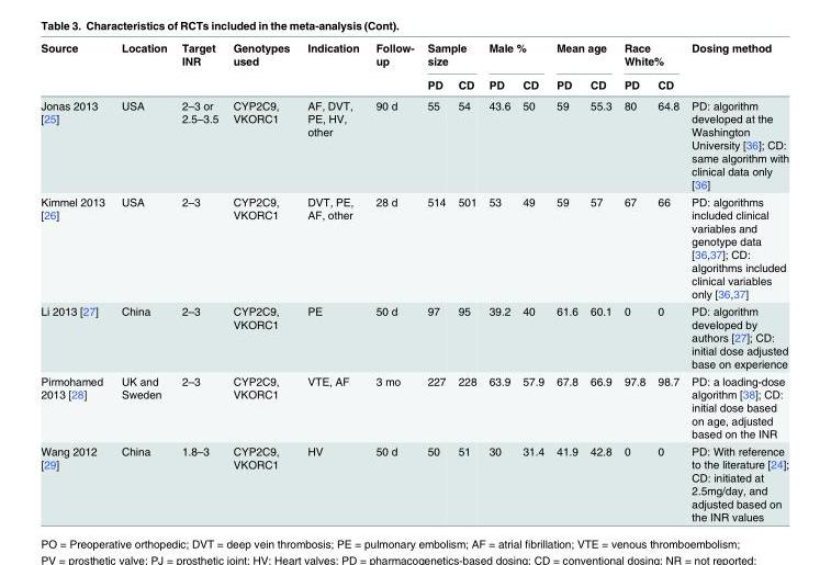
<table><thead><tr><td rowspan="2">Source</td><td rowspan="2">Location</td><td rowspan="2">Target INR</td><td rowspan="2">Genotypes used</td><td rowspan="2">Indication</td><td rowspan="2">Follow- up</td><td colspan="2">Sample size</td><td colspan="2">Male %</td><td colspan="2">Mean age</td><td colspan="2">Race White%</td><td rowspan="2">Dosing method</td></tr><tr><td>PD</td><td>CD</td><td>PD</td><td>CD</td><td>PD</td><td>CD</td><td>PD</td><td>CD</td></tr></thead><tbody><tr><td>Jonas 2013 [25]</td><td>USA</td><td>2–3 or 2.5–3.5</td><td>CYP2C9, VKORC1</td><td>AF, DVT, PE, HV, other</td><td>90 d</td><td>55</td><td>54</td><td>43.6</td><td>50</td><td>59</td><td>55.3</td><td>80</td><td>64.8</td><td>PD: algorithm developed at the Washington University [36]; CD: same algorithm with clinical data only [36]</td></tr><tr><td>Kimmel 2013 [26]</td><td>USA</td><td>2–3</td><td>CYP2C9, VKORC1</td><td>DVT, PE, AF, other</td><td>28 d</td><td>514</td><td>501</td><td>53</td><td>49</td><td>59</td><td>57</td><td>67</td><td>66</td><td>PD: algorithms included clinical variables and genotype data [36,37]; CD: algorithms included clinical variables only [36,37]</td></tr><tr><td>Li 2013 [27]</td><td>China</td><td>2–3</td><td>CYP2C9, VKORC1</td><td>PE</td><td>50 d</td><td>97</td><td>95</td><td>39.2</td><td>40</td><td>61.6</td><td>60.1</td><td>0</td><td>0</td><td>PD: algorithm developed by authors [27]; CD: initial dose adjusted base on experience</td></tr><tr><td>Pirmohamed 2013 [28]</td><td>UK and Sweden</td><td>2–3</td><td>CYP2C9, VKORC1</td><td>VTE, AF</td><td>3 mo</td><td>227</td><td>228</td><td>63.9</td><td>57.9</td><td>67.8</td><td>66.9</td><td>97.8</td><td>98.7</td><td>PD: a loading-dose algorithm [38]; CD: initial dose based on age, adjusted based on the INR</td></tr><tr><td>Wang 2012 [29]</td><td>China</td><td>1.8–3</td><td>CYP2C9, VKORC1</td><td>HV</td><td>50 d</td><td>50</td><td>51</td><td>30</td><td>31.4</td><td>41.9</td><td>42.8</td><td>0</td><td>0</td><td>PD: With reference to the literature [24]; CD: initiated at 2.5mg/day, and adjusted based on the INR values</td></tr></tbody></table>